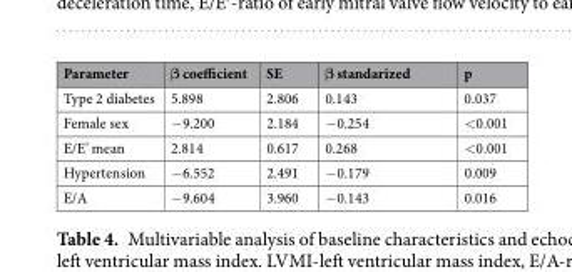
<table><thead><tr><td>Parameter</td><td>β coefficient</td><td>SE</td><td>β standarized</td><td>p</td></tr></thead><tbody><tr><td>Type 2 diabetes</td><td>5.898</td><td>2.806</td><td>0.143</td><td>0.037</td></tr><tr><td>Female sex</td><td>−9.200</td><td>2.184</td><td>−0.254</td><td>&lt;0.001</td></tr><tr><td>E/E’ mean</td><td>2.814</td><td>0.617</td><td>0.268</td><td>&lt;0.001</td></tr><tr><td>Hypertension</td><td>−6.552</td><td>2.491</td><td>−0.179</td><td>0.009</td></tr><tr><td>E/A</td><td>−9.604</td><td>3.960</td><td>−0.143</td><td>0.016</td></tr></tbody></table>